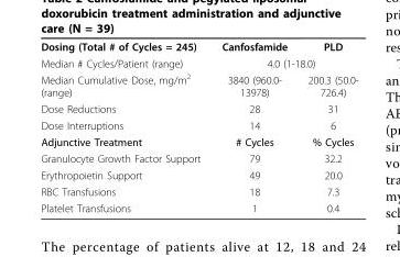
<table><tbody><tr><td>Dosing (Total # of Cycles = 245)</td><td>Canfosfamide</td><td>PLD</td></tr><tr><td>Median # Cycles/Patient (range)</td><td colspan="2">4.0 (1-18.0)</td></tr><tr><td>Median Cumulative Dose, mg/m<sup>2</sup> (range)</td><td>3840 (960.0- 13978)</td><td>200.3 (50.0- 726.4)</td></tr><tr><td>Dose Reductions</td><td>28</td><td>31</td></tr><tr><td>Dose Interruptions</td><td>14</td><td>6</td></tr><tr><td>Adjunctive Treatment</td><td># Cycles</td><td>% Cycles</td></tr><tr><td>Granulocyte Growth Factor Support</td><td>79</td><td>32.2</td></tr><tr><td>Erythropoietin Support</td><td>49</td><td>20.0</td></tr><tr><td>RBC Transfusions</td><td>18</td><td>7.3</td></tr><tr><td>Platelet Transfusions</td><td>1</td><td>0.4</td></tr></tbody></table>